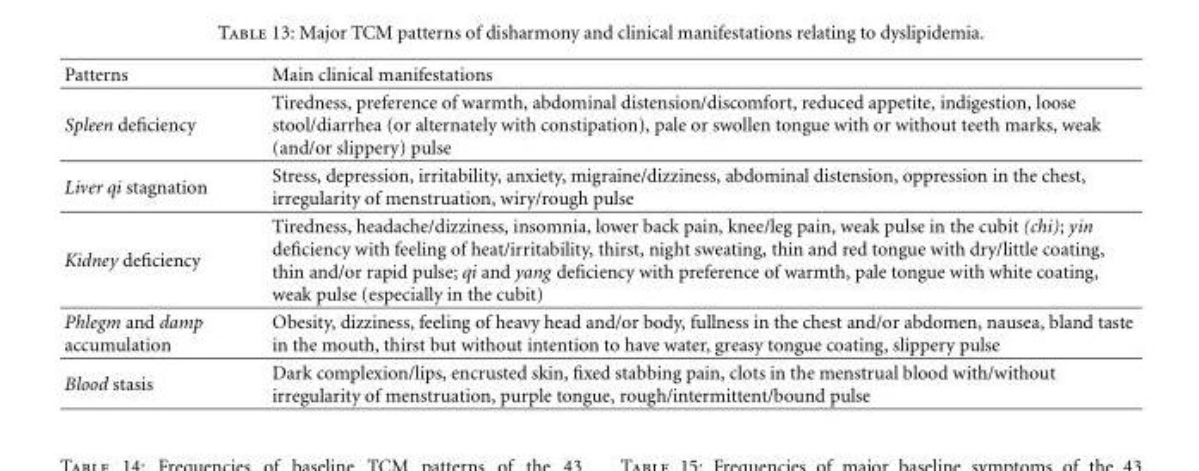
<table><thead><tr><td>Patterns</td><td>Main clinical manifestations</td></tr></thead><tbody><tr><td>Spleen deficiency</td><td>Tiredness, preference of warmth, abdominal distension/discomfort, reduced appetite, indigestion, loose stool/diarrhea (or alternately with constipation), pale or swollen tongue with or without teeth marks, weak (and/or slippery) pulse</td></tr><tr><td>Liver qi stagnation</td><td>Stress, depression, irritability, anxiety, migraine/dizziness, abdominal distension, oppression in the chest, irregularity of menstruation, wiry/rough pulse</td></tr><tr><td>Kidney deficiency</td><td>Tiredness, headache/dizziness, insomnia, lower back pain, knee/leg pain, weak pulse in the cubit (chi); yin deficiency with feeling of heat/irritability, thirst, night sweating, thin and red tongue with dry/little coating, thin and/or rapid pulse; qi and yang deficiency with preference of warmth, pale tongue with white coating, weak pulse (especially in the cubit)</td></tr><tr><td>Phlegm and damp accumulation</td><td>Obesity, dizziness, feeling of heavy head and/or body, fullness in the chest and/or abdomen, nausea, bland taste in the mouth, thirst but without intention to have water, greasy tongue coating, slippery pulse</td></tr><tr><td>Blood stasis</td><td>Dark complexion/lips, encrusted skin, fixed stabbing pain, clots in the menstrual blood with/without irregularity of menstruation, purple tongue, rough/intermittent/bound pulse</td></tr></tbody></table>